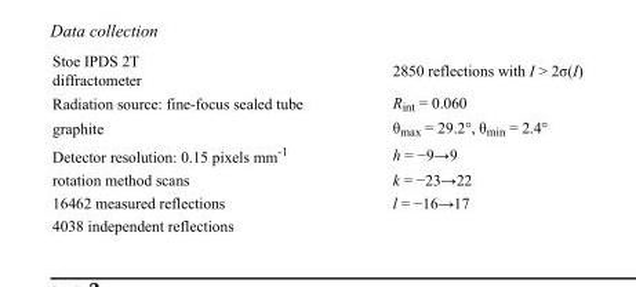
<table><tbody><tr><td>Stoe IPDS 2T diffractometer</td><td>2850 reflections with I &gt; 2σ(I)</td></tr><tr><td>Radiation source: fine-focus sealed tube</td><td>R<sub>int</sub> = 0.060</td></tr><tr><td>graphite</td><td>θ<sub>max</sub> = 29.2°, θ<sub>min</sub> = 2.4°</td></tr><tr><td>Detector resolution: 0.15 pixels mm<sup>-1</sup></td><td>h = −9→9</td></tr><tr><td>rotation method scans</td><td>k = −23→22</td></tr><tr><td>16462 measured reflections</td><td>l = −16→17</td></tr><tr><td>4038 independent reflections</td><td></td></tr></tbody></table>